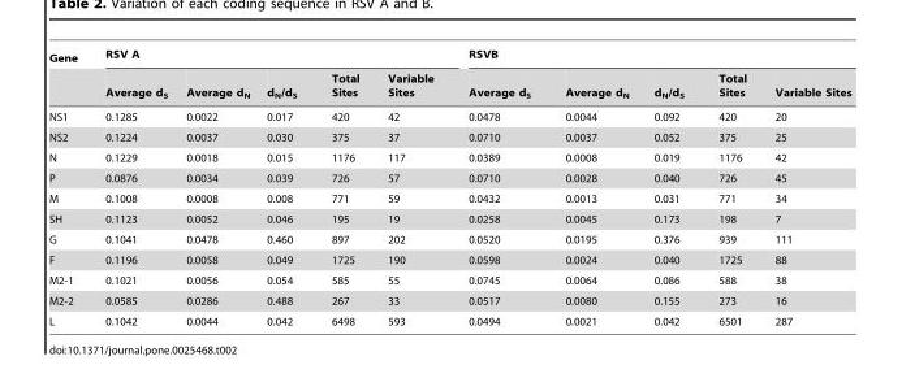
<table><thead><tr><td rowspan="2">Gene</td><td colspan="5">RSV A</td><td colspan="5">RSVB</td></tr><tr><td>Average d<sub>S</sub></td><td>Average d<sub>N</sub></td><td>d<sub>N</sub>/d<sub>S</sub></td><td>Total Sites</td><td>Variable Sites</td><td>Average d<sub>S</sub></td><td>Average d<sub>N</sub></td><td>d<sub>N</sub>/d<sub>S</sub></td><td>Total Sites</td><td>Variable Sites</td></tr></thead><tbody><tr><td>NS1</td><td>0.1285</td><td>0.0022</td><td>0.017</td><td>420</td><td>42</td><td>0.0478</td><td>0.0044</td><td>0.092</td><td>420</td><td>20</td></tr><tr><td>NS2</td><td>0.1224</td><td>0.0037</td><td>0.030</td><td>375</td><td>37</td><td>0.0710</td><td>0.0037</td><td>0.052</td><td>375</td><td>25</td></tr><tr><td>N</td><td>0.1229</td><td>0.0018</td><td>0.015</td><td>1176</td><td>117</td><td>0.0389</td><td>0.0008</td><td>0.019</td><td>1176</td><td>42</td></tr><tr><td>P</td><td>0.0876</td><td>0.0034</td><td>0.039</td><td>726</td><td>57</td><td>0.0710</td><td>0.0028</td><td>0.040</td><td>726</td><td>45</td></tr><tr><td>M</td><td>0.1008</td><td>0.0008</td><td>0.008</td><td>771</td><td>59</td><td>0.0432</td><td>0.0013</td><td>0.031</td><td>771</td><td>34</td></tr><tr><td>SH</td><td>0.1123</td><td>0.0052</td><td>0.046</td><td>195</td><td>19</td><td>0.0258</td><td>0.0045</td><td>0.173</td><td>198</td><td>7</td></tr><tr><td>G</td><td>0.1041</td><td>0.0478</td><td>0.460</td><td>897</td><td>202</td><td>0.0520</td><td>0.0195</td><td>0.376</td><td>939</td><td>111</td></tr><tr><td>F</td><td>0.1196</td><td>0.0058</td><td>0.049</td><td>1725</td><td>190</td><td>0.0598</td><td>0.0024</td><td>0.040</td><td>1725</td><td>88</td></tr><tr><td>M2-1</td><td>0.1021</td><td>0.0056</td><td>0.054</td><td>585</td><td>55</td><td>0.0745</td><td>0.0064</td><td>0.086</td><td>588</td><td>38</td></tr><tr><td>M2-2</td><td>0.0585</td><td>0.0286</td><td>0.488</td><td>267</td><td>33</td><td>0.0517</td><td>0.0080</td><td>0.155</td><td>273</td><td>16</td></tr><tr><td>L</td><td>0.1042</td><td>0.0044</td><td>0.042</td><td>6498</td><td>593</td><td>0.0494</td><td>0.0021</td><td>0.042</td><td>6501</td><td>287</td></tr></tbody></table>